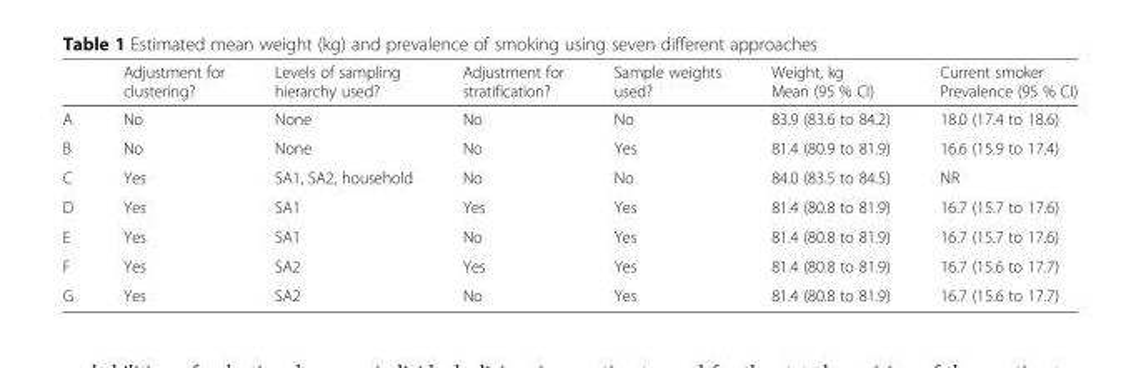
<table><thead><tr><td></td><td>Adjustment for clustering?</td><td>Levels of sampling hierarchy used?</td><td>Adjustment for stratification?</td><td>Sample weights used?</td><td>Weight, kg Mean (95 % CI)</td><td>Current smoker Prevalence (95 % CI)</td></tr></thead><tbody><tr><td>A</td><td>No</td><td>None</td><td>No</td><td>No</td><td>83.9 (83.6 to 84.2)</td><td>18.0 (17.4 to 18.6)</td></tr><tr><td>B</td><td>No</td><td>None</td><td>No</td><td>Yes</td><td>81.4 (80.9 to 81.9)</td><td>16.6 (15.9 to 17.4)</td></tr><tr><td>C</td><td>Yes</td><td>SA1, SA2, household</td><td>No</td><td>No</td><td>84.0 (83.5 to 84.5)</td><td>NR</td></tr><tr><td>D</td><td>Yes</td><td>SA1</td><td>Yes</td><td>Yes</td><td>81.4 (80.8 to 81.9)</td><td>16.7 (15.7 to 17.6)</td></tr><tr><td>E</td><td>Yes</td><td>SA1</td><td>No</td><td>Yes</td><td>81.4 (80.8 to 81.9)</td><td>16.7 (15.7 to 17.6)</td></tr><tr><td>F</td><td>Yes</td><td>SA2</td><td>Yes</td><td>Yes</td><td>81.4 (80.8 to 81.9)</td><td>16.7 (15.6 to 17.7)</td></tr><tr><td>G</td><td>Yes</td><td>SA2</td><td>No</td><td>Yes</td><td>81.4 (80.8 to 81.9)</td><td>16.7 (15.6 to 17.7)</td></tr></tbody></table>